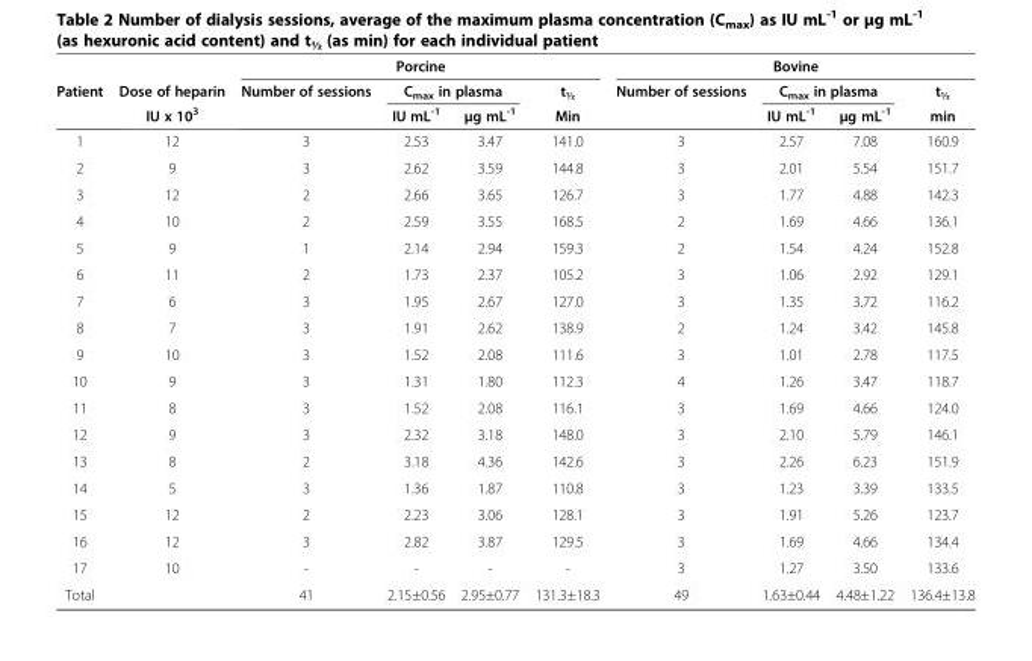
<table><thead><tr><td rowspan="3">Patient</td><td rowspan="3">Dose of heparin IU x 10<sup>3</sup></td><td colspan="4">Porcine</td><td colspan="4">Bovine</td></tr><tr><td rowspan="2">Number of sessions</td><td colspan="2">C<sub>max</sub> in plasma</td><td rowspan="2">t½ Min</td><td rowspan="2">Number of sessions</td><td colspan="2">C<sub>max</sub> in plasma</td><td rowspan="2">t½ min</td></tr><tr><td>IU mL<sup>-1</sup></td><td>μg mL<sup>-1</sup></td><td>IU mL<sup>-1</sup></td><td>μg mL<sup>-1</sup></td></tr></thead><tbody><tr><td>1</td><td>12</td><td>3</td><td>2.53</td><td>3.47</td><td>141.0</td><td>3</td><td>2.57</td><td>7.08</td><td>160.9</td></tr><tr><td>2</td><td>9</td><td>3</td><td>2.62</td><td>3.59</td><td>144.8</td><td>3</td><td>2.01</td><td>5.54</td><td>151.7</td></tr><tr><td>3</td><td>12</td><td>2</td><td>2.66</td><td>3.65</td><td>126.7</td><td>3</td><td>1.77</td><td>4.88</td><td>142.3</td></tr><tr><td>4</td><td>10</td><td>2</td><td>2.59</td><td>3.55</td><td>168.5</td><td>2</td><td>1.69</td><td>4.66</td><td>136.1</td></tr><tr><td>5</td><td>9</td><td>1</td><td>2.14</td><td>2.94</td><td>159.3</td><td>2</td><td>1.54</td><td>4.24</td><td>152.8</td></tr><tr><td>6</td><td>11</td><td>2</td><td>1.73</td><td>2.37</td><td>105.2</td><td>3</td><td>1.06</td><td>2.92</td><td>129.1</td></tr><tr><td>7</td><td>6</td><td>3</td><td>1.95</td><td>2.67</td><td>127.0</td><td>3</td><td>1.35</td><td>3.72</td><td>116.2</td></tr><tr><td>8</td><td>7</td><td>3</td><td>1.91</td><td>2.62</td><td>138.9</td><td>2</td><td>1.24</td><td>3.42</td><td>145.8</td></tr><tr><td>9</td><td>10</td><td>3</td><td>1.52</td><td>2.08</td><td>111.6</td><td>3</td><td>1.01</td><td>2.78</td><td>117.5</td></tr><tr><td>10</td><td>9</td><td>3</td><td>1.31</td><td>1.80</td><td>112.3</td><td>4</td><td>1.26</td><td>3.47</td><td>118.7</td></tr><tr><td>11</td><td>8</td><td>3</td><td>1.52</td><td>2.08</td><td>116.1</td><td>3</td><td>1.69</td><td>4.66</td><td>124.0</td></tr><tr><td>12</td><td>9</td><td>3</td><td>2.32</td><td>3.18</td><td>148.0</td><td>3</td><td>2.10</td><td>5.79</td><td>146.1</td></tr><tr><td>13</td><td>8</td><td>2</td><td>3.18</td><td>4.36</td><td>142.6</td><td>3</td><td>2.26</td><td>6.23</td><td>151.9</td></tr><tr><td>14</td><td>5</td><td>3</td><td>1.36</td><td>1.87</td><td>110.8</td><td>3</td><td>1.23</td><td>3.39</td><td>133.5</td></tr><tr><td>15</td><td>12</td><td>2</td><td>2.23</td><td>3.06</td><td>128.1</td><td>3</td><td>1.91</td><td>5.26</td><td>123.7</td></tr><tr><td>16</td><td>12</td><td>3</td><td>2.82</td><td>3.87</td><td>129.5</td><td>3</td><td>1.69</td><td>4.66</td><td>134.4</td></tr><tr><td>17</td><td>10</td><td>-</td><td>-</td><td>-</td><td>-</td><td>3</td><td>1.27</td><td>3.50</td><td>133.6</td></tr><tr><td>Total</td><td></td><td>41</td><td>2.15±0.56</td><td>2.95±0.77</td><td>131.3±18.3</td><td>49</td><td>1.63±0.44</td><td>4.48±1.22</td><td>136.4±13.8</td></tr></tbody></table>